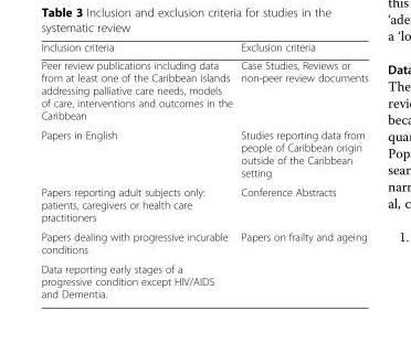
<table><thead><tr><td>Inclusion criteria</td><td>Exclusion criteria</td></tr></thead><tbody><tr><td>Peer review publications including data from at least one of the Caribbean islands addressing palliative care needs, models of care, interventions and outcomes in the Caribbean</td><td>Case Studies, Reviews or non-peer review documents</td></tr><tr><td>Papers in English</td><td>Studies reporting data from people of Caribbean origin outside of the Caribbean setting</td></tr><tr><td>Papers reporting adult subjects only: patients, caregivers or health care practitioners</td><td>Conference Abstracts</td></tr><tr><td>Papers dealing with progressive incurable conditions</td><td>Papers on frailty and ageing</td></tr><tr><td>Data reporting early stages of a progressive condition except HIV/AIDS and Dementia.</td><td></td></tr></tbody></table>